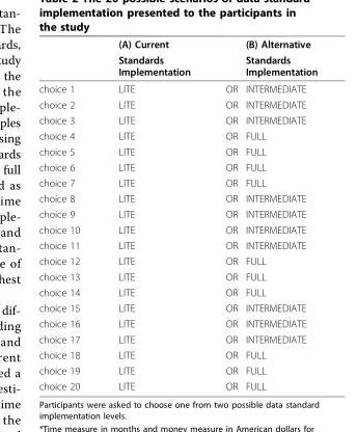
<table><thead><tr><td rowspan="2"></td><td rowspan="2">(A) Current Standards Implementation</td><td rowspan="2"></td><td rowspan="2">(B) Alternative Standards Implementation</td></tr><tr></tr></thead><tbody><tr><td>choice 1</td><td>LITE</td><td>OR</td><td>INTERMEDIATE</td></tr><tr><td>choice 2</td><td>LITE</td><td>OR</td><td>INTERMEDIATE</td></tr><tr><td>choice 3</td><td>LITE</td><td>OR</td><td>INTERMEDIATE</td></tr><tr><td>choice 4</td><td>LITE</td><td>OR</td><td>FULL</td></tr><tr><td>choice 5</td><td>LITE</td><td>OR</td><td>FULL</td></tr><tr><td>choice 6</td><td>LITE</td><td>OR</td><td>FULL</td></tr><tr><td>choice 7</td><td>LITE</td><td>OR</td><td>FULL</td></tr><tr><td>choice 8</td><td>LITE</td><td>OR</td><td>INTERMEDIATE</td></tr><tr><td>choice 9</td><td>LITE</td><td>OR</td><td>INTERMEDIATE</td></tr><tr><td>choice 10</td><td>LITE</td><td>OR</td><td>INTERMEDIATE</td></tr><tr><td>choice 11</td><td>LITE</td><td>OR</td><td>INTERMEDIATE</td></tr><tr><td>choice 12</td><td>LITE</td><td>OR</td><td>FULL</td></tr><tr><td>choice 13</td><td>LITE</td><td>OR</td><td>FULL</td></tr><tr><td>choice 14</td><td>LITE</td><td>OR</td><td>FULL</td></tr><tr><td>choice 15</td><td>LITE</td><td>OR</td><td>INTERMEDIATE</td></tr><tr><td>choice 16</td><td>LITE</td><td>OR</td><td>INTERMEDIATE</td></tr><tr><td>choice 17</td><td>LITE</td><td>OR</td><td>INTERMEDIATE</td></tr><tr><td>choice 18</td><td>LITE</td><td>OR</td><td>FULL</td></tr><tr><td>choice 19</td><td>LITE</td><td>OR</td><td>FULL</td></tr><tr><td>choice 20</td><td>LITE</td><td>OR</td><td>FULL</td></tr></tbody></table>